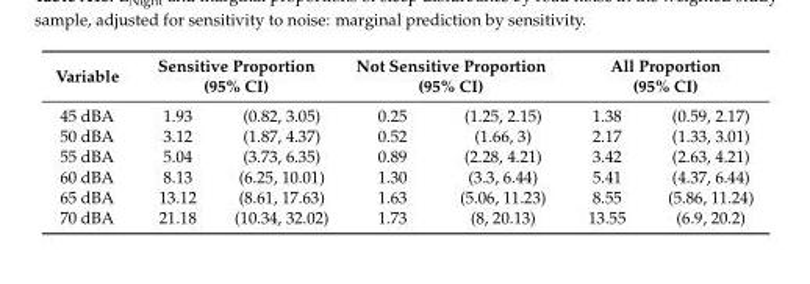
<table><thead><tr><td rowspan="2">Variable 45 dBA</td><td colspan="2">Sensitive Proportion (95% CI)</td><td colspan="2">Not Sensitive Proportion (95% CI)</td><td colspan="2">All Proportion (95% CI)</td></tr><tr><td>1.93</td><td>(0.82, 3.05)</td><td>0.25</td><td>(1.25, 2.15)</td><td>1.38</td><td>(0.59, 2.17)</td></tr></thead><tbody><tr><td>50 dBA</td><td>3.12</td><td>(1.87, 4.37)</td><td>0.52</td><td>(1.66, 3)</td><td>2.17</td><td>(1.33, 3.01)</td></tr><tr><td>55 dBA</td><td>5.04</td><td>(3.73, 6.35)</td><td>0.89</td><td>(2.28, 4.21)</td><td>3.42</td><td>(2.63, 4.21)</td></tr><tr><td>60 dBA</td><td>8.13</td><td>(6.25, 10.01)</td><td>1.30</td><td>(3.3, 6.44)</td><td>5.41</td><td>(4.37, 6.44)</td></tr><tr><td>65 dBA</td><td>13.12</td><td>(8.61, 17.63)</td><td>1.63</td><td>(5.06, 11.23)</td><td>8.55</td><td>(5.86, 11.24)</td></tr><tr><td>70 dBA</td><td>21.18</td><td>(10.34, 32.02)</td><td>1.73</td><td>(8, 20.13)</td><td>13.55</td><td>(6.9, 20.2)</td></tr></tbody></table>